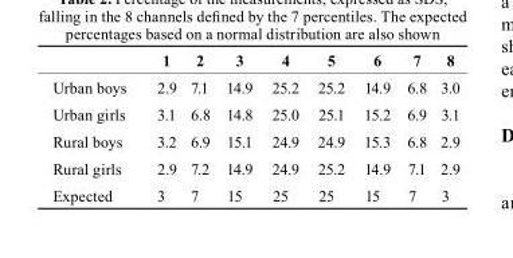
<table><thead><tr><td></td><td>1</td><td>2</td><td>3</td><td>4</td><td>5</td><td>6</td><td>7</td><td>8</td></tr></thead><tbody><tr><td>Urban boys</td><td>2.9</td><td>7.1</td><td>14.9</td><td>25.2</td><td>25.2</td><td>14.9</td><td>6.8</td><td>3.0</td></tr><tr><td>Urban girls</td><td>3.1</td><td>6.8</td><td>14.8</td><td>25.0</td><td>25.1</td><td>15.2</td><td>6.9</td><td>3.1</td></tr><tr><td>Rural boys</td><td>3.2</td><td>6.9</td><td>15.1</td><td>24.9</td><td>24.9</td><td>15.3</td><td>6.8</td><td>2.9</td></tr><tr><td>Rural girls</td><td>2.9</td><td>7.2</td><td>14.9</td><td>24.9</td><td>25.2</td><td>14.9</td><td>7.1</td><td>2.9</td></tr><tr><td>Expected</td><td>3</td><td>7</td><td>15</td><td>25</td><td>25</td><td>15</td><td>7</td><td>3</td></tr></tbody></table>